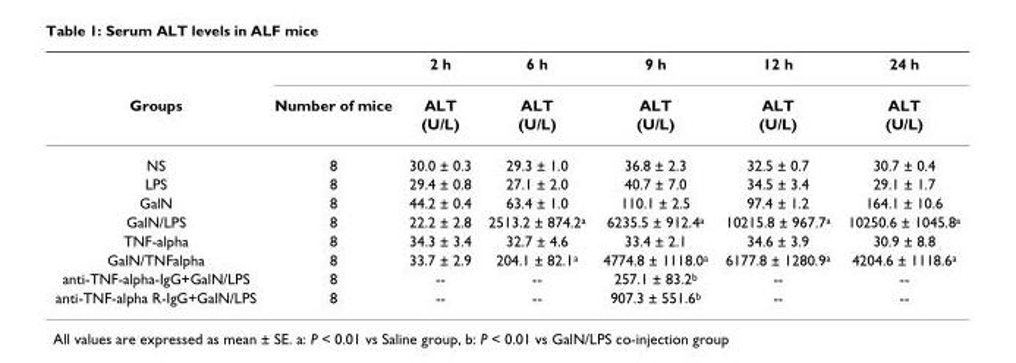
<table><thead><tr><td rowspan="3">Groups</td><td rowspan="3">Number of mice</td><td rowspan="3">2 h ALT (U/L)</td><td rowspan="3">6 h ALT (U/L)</td><td rowspan="3">9 h ALT (U/L)</td><td rowspan="3">12 h ALT (U/L)</td><td rowspan="3">24 h ALT (U/L)</td></tr><tr></tr><tr></tr></thead><tbody><tr><td>NS</td><td>8</td><td>30.0 ± 0.3</td><td>29.3 ± 1.0</td><td>36.8 ± 2.3</td><td>32.5 ± 0.7</td><td>30.7 ± 0.4</td></tr><tr><td>LPS</td><td>8</td><td>29.4 ± 0.8</td><td>27.1 ± 2.0</td><td>40.7 ± 7.0</td><td>34.5 ± 3.4</td><td>29.1 ± 1.7</td></tr><tr><td>GalN</td><td>8</td><td>44.2 ± 0.4</td><td>63.4 ± 1.0</td><td>110.1 ± 2.5</td><td>97.4 ± 1.2</td><td>164.1 ± 10.6</td></tr><tr><td>GalN/LPS</td><td>8</td><td>22.2 ± 2.8</td><td>2513.2 ± 874.2<sup>a</sup></td><td>6235.5 ± 912.4<sup>a</sup></td><td>10215.8 ± 967.7<sup>a</sup></td><td>10250.6 ± 1045.8<sup>a</sup></td></tr><tr><td>TNF-alpha</td><td>8</td><td>34.3 ± 3.4</td><td>32.7 ± 4.6</td><td>33.4 ± 2.1</td><td>34.6 ± 3.9</td><td>30.9 ± 8.8</td></tr><tr><td>GalN/TNFalpha</td><td>8</td><td>33.7 ± 2.9</td><td>204.1 ± 82.1<sup>a</sup></td><td>4774.8 ± 1118.0<sup>a</sup></td><td>6177.8 ± 1280.9<sup>a</sup></td><td>4204.6 ± 1118.6<sup>a</sup></td></tr><tr><td>anti-TNF-alpha-IgG+GalN/LPS</td><td>8</td><td>--</td><td>--</td><td>257.1 ± 83.2<sup>b</sup></td><td>--</td><td>--</td></tr><tr><td>anti-TNF-alpha R-IgG+GalN/LPS</td><td>8</td><td>--</td><td>--</td><td>907.3 ± 551.6<sup>b</sup></td><td>--</td><td>--</td></tr></tbody></table>